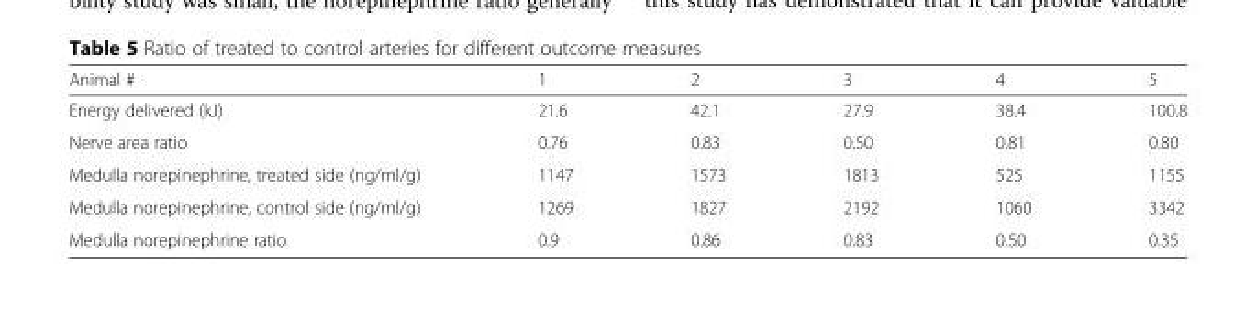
<table><thead><tr><td>Animal #</td><td>1</td><td>2</td><td>3</td><td>4</td><td>5</td></tr></thead><tbody><tr><td>Energy delivered (kJ)</td><td>21.6</td><td>42.1</td><td>27.9</td><td>38.4</td><td>100.8</td></tr><tr><td>Nerve area ratio</td><td>0.76</td><td>0.83</td><td>0.50</td><td>0.81</td><td>0.80</td></tr><tr><td>Medulla norepinephrine, treated side (ng/ml/g)</td><td>1147</td><td>1573</td><td>1813</td><td>525</td><td>1155</td></tr><tr><td>Medulla norepinephrine, control side (ng/ml/g)</td><td>1269</td><td>1827</td><td>2192</td><td>1060</td><td>3342</td></tr><tr><td>Medulla norepinephrine ratio</td><td>0.9</td><td>0.86</td><td>0.83</td><td>0.50</td><td>0.35</td></tr></tbody></table>